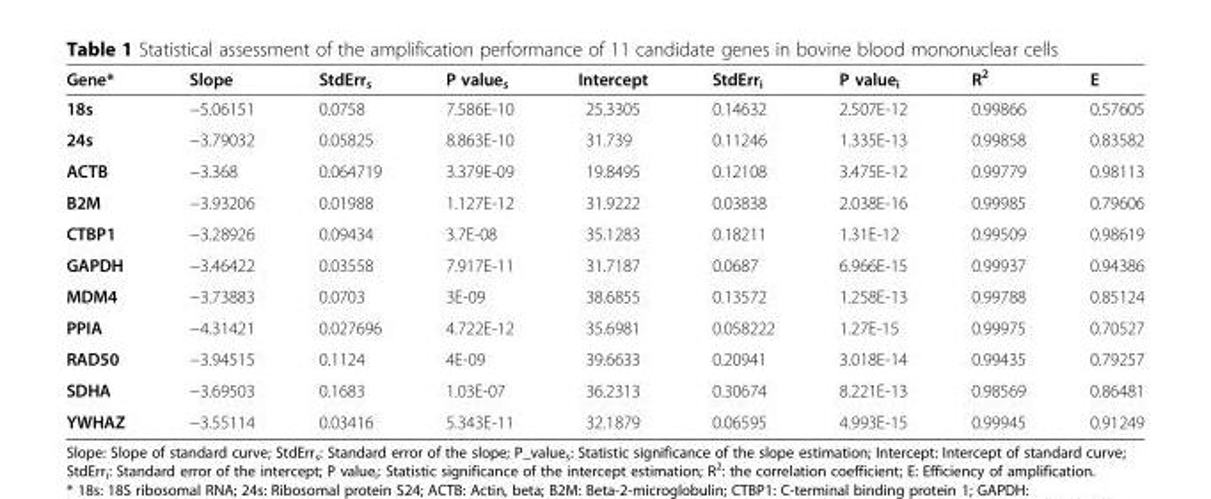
<table><thead><tr><td>Gene*</td><td>Slope</td><td>StdErr<sub>s</sub></td><td>P value<sub>s</sub></td><td>Intercept</td><td>StdErr<sub>i</sub></td><td>P value<sub>i</sub></td><td>R<sup>2</sup></td><td>E</td></tr></thead><tbody><tr><td>18s</td><td>−5.06151</td><td>0.0758</td><td>7.586E-10</td><td>25.3305</td><td>0.14632</td><td>2.507E-12</td><td>0.99866</td><td>0.57605</td></tr><tr><td>24s</td><td>−3.79032</td><td>0.05825</td><td>8.863E-10</td><td>31.739</td><td>0.11246</td><td>1.335E-13</td><td>0.99858</td><td>0.83582</td></tr><tr><td>ACTB</td><td>−3.368</td><td>0.064719</td><td>3.379E-09</td><td>19.8495</td><td>0.12108</td><td>3.475E-12</td><td>0.99779</td><td>0.98113</td></tr><tr><td>B2M</td><td>−3.93206</td><td>0.01988</td><td>1.127E-12</td><td>31.9222</td><td>0.03838</td><td>2.038E-16</td><td>0.99985</td><td>0.79606</td></tr><tr><td>CTBP1</td><td>−3.28926</td><td>0.09434</td><td>3.7E-08</td><td>35.1283</td><td>0.18211</td><td>1.31E-12</td><td>0.99509</td><td>0.98619</td></tr><tr><td>GAPDH</td><td>−3.46422</td><td>0.03558</td><td>7.917E-11</td><td>31.7187</td><td>0.0687</td><td>6.966E-15</td><td>0.99937</td><td>0.94386</td></tr><tr><td>MDM4</td><td>−3.73883</td><td>0.0703</td><td>3E-09</td><td>38.6855</td><td>0.13572</td><td>1.258E-13</td><td>0.99788</td><td>0.85124</td></tr><tr><td>PPIA</td><td>−4.31421</td><td>0.027696</td><td>4.722E-12</td><td>35.6981</td><td>0.058222</td><td>1.27E-15</td><td>0.99975</td><td>0.70527</td></tr><tr><td>RAD50</td><td>−3.94515</td><td>0.1124</td><td>4E-09</td><td>39.6633</td><td>0.20941</td><td>3.018E-14</td><td>0.99435</td><td>0.79257</td></tr><tr><td>SDHA</td><td>−3.69503</td><td>0.1683</td><td>1.03E-07</td><td>36.2313</td><td>0.30674</td><td>8.221E-13</td><td>0.98569</td><td>0.86481</td></tr><tr><td>YWHAZ</td><td>−3.55114</td><td>0.03416</td><td>5.343E-11</td><td>32.1879</td><td>0.06595</td><td>4.993E-15</td><td>0.99945</td><td>0.91249</td></tr></tbody></table>